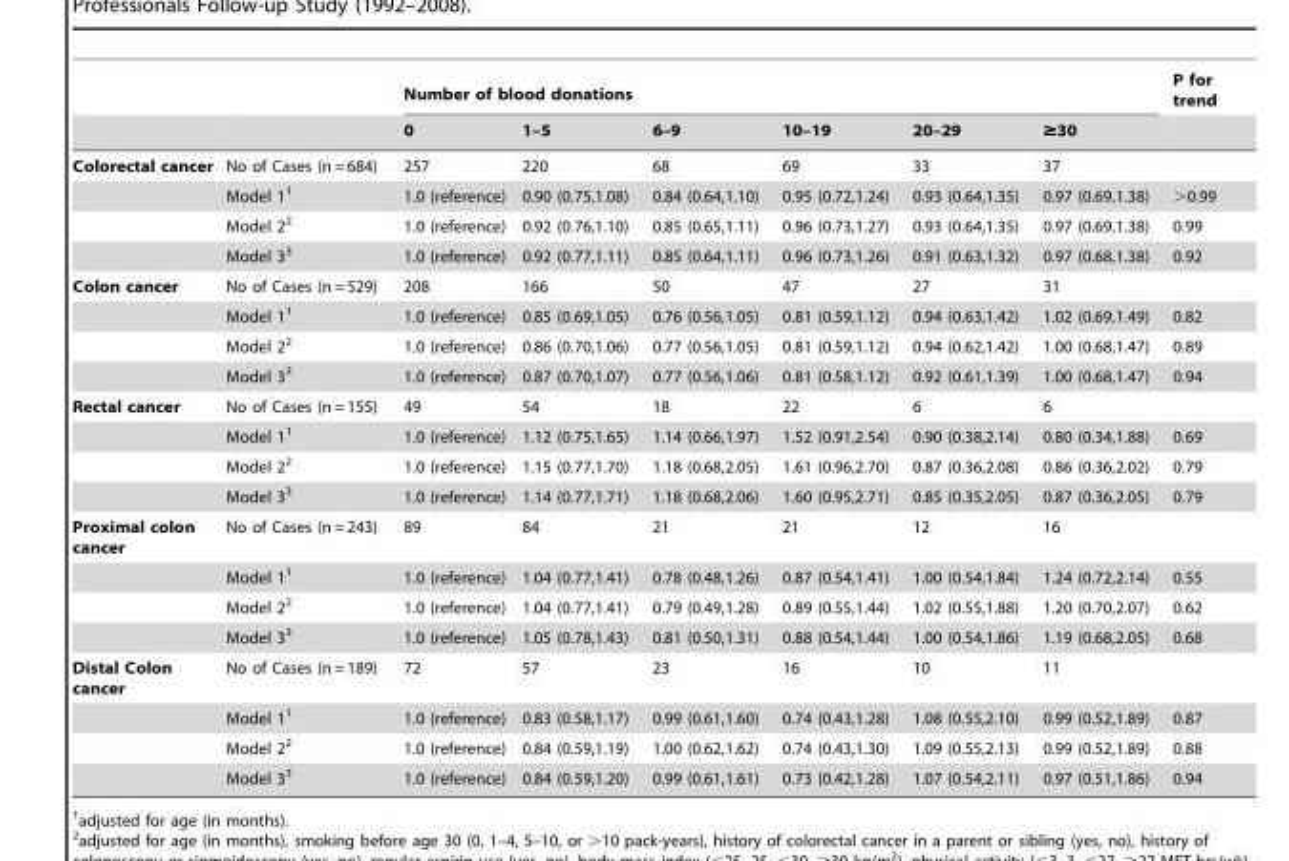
<table><thead><tr><td rowspan="2"></td><td rowspan="2"></td><td colspan="6">Number of blood donations</td><td rowspan="2">P for trend</td></tr><tr><td>0</td><td>1–5</td><td>6–9</td><td>10–19</td><td>20–29</td><td>≥30</td></tr></thead><tbody><tr><td rowspan="4">Colorectal cancer</td><td>No of Cases (n = 684)</td><td>257</td><td>220</td><td>68</td><td>69</td><td>33</td><td>37</td><td></td></tr><tr><td>Model 1<sup>1</sup></td><td>1.0 (reference)</td><td>0.90 (0.75,1.08)</td><td>0.84 (0.64,1.10)</td><td>0.95 (0.72,1.24)</td><td>0.93 (0.64,1.35)</td><td>0.97 (0.69,1.38)</td><td>&gt;0.99</td></tr><tr><td>Model 2<sup>2</sup></td><td>1.0 (reference)</td><td>0.92 (0.76,1.10)</td><td>0.85 (0.65,1.11)</td><td>0.96 (0.73,1.27)</td><td>0.93 (0.64,1.35)</td><td>0.97 (0.69,1.38)</td><td>0.99</td></tr><tr><td>Model 3<sup>3</sup></td><td>1.0 (reference)</td><td>0.92 (0.77,1.11)</td><td>0.85 (0.64,1.11)</td><td>0.96 (0.73,1.26)</td><td>0.91 (0.63,1.32)</td><td>0.97 (0.68,1.38)</td><td>0.92</td></tr><tr><td rowspan="4">Colon cancer</td><td>No of Cases (n = 529)</td><td>208</td><td>166</td><td>50</td><td>47</td><td>27</td><td>31</td><td></td></tr><tr><td>Model 1<sup>1</sup></td><td>1.0 (reference)</td><td>0.85 (0.69,1.05)</td><td>0.76 (0.56,1.05)</td><td>0.81 (0.59,1.12)</td><td>0.94 (0.63,1.42)</td><td>1.02 (0.69,1.49)</td><td>0.82</td></tr><tr><td>Model 2<sup>2</sup></td><td>1.0 (reference)</td><td>0.86 (0.70,1.06)</td><td>0.77 (0.56,1.05)</td><td>0.81 (0.59,1.12)</td><td>0.94 (0.62,1.42)</td><td>1.00 (0.68,1.47)</td><td>0.89</td></tr><tr><td>Model 3<sup>3</sup></td><td>1.0 (reference)</td><td>0.87 (0.70,1.07)</td><td>0.77 (0.56,1.06)</td><td>0.81 (0.58,1.12)</td><td>0.92 (0.61,1.39)</td><td>1.00 (0.68,1.47)</td><td>0.94</td></tr><tr><td rowspan="4">Rectal cancer</td><td>No of Cases (n = 155)</td><td>49</td><td>54</td><td>18</td><td>22</td><td>6</td><td>6</td><td></td></tr><tr><td>Model 1<sup>1</sup></td><td>1.0 (reference)</td><td>1.12 (0.75,1.65)</td><td>1.14 (0.66,1.97)</td><td>1.52 (0.91,2.54)</td><td>0.90 (0.38,2.14)</td><td>0.80 (0.34,1.88)</td><td>0.69</td></tr><tr><td>Model 2<sup>2</sup></td><td>1.0 (reference)</td><td>1.15 (0.77,1.70)</td><td>1.18 (0.68,2.05)</td><td>1.61 (0.96,2.70)</td><td>0.87 (0.36,2.08)</td><td>0.86 (0.36,2.02)</td><td>0.79</td></tr><tr><td>Model 3<sup>3</sup></td><td>1.0 (reference)</td><td>1.14 (0.77,1.71)</td><td>1.18 (0.68,2.06)</td><td>1.60 (0.95,2.71)</td><td>0.85 (0.35,2.05)</td><td>0.87 (0.36,2.05)</td><td>0.79</td></tr><tr><td rowspan="4">Proximal colon cancer</td><td>No of Cases (n = 243)</td><td>89</td><td>84</td><td>21</td><td>21</td><td>12</td><td>16</td><td></td></tr><tr><td>Model 1<sup>1</sup></td><td>1.0 (reference)</td><td>1.04 (0.77,1.41)</td><td>0.78 (0.48,1.26)</td><td>0.87 (0.54,1.41)</td><td>1.00 (0.54,1.84)</td><td>1.24 (0.72,2.14)</td><td>0.55</td></tr><tr><td>Model 2<sup>2</sup></td><td>1.0 (reference)</td><td>1.04 (0.77,1.41)</td><td>0.79 (0.49,1.28)</td><td>0.89 (0.55,1.44)</td><td>1.02 (0.55,1.88)</td><td>1.20 (0.70,2.07)</td><td>0.62</td></tr><tr><td>Model 3<sup>3</sup></td><td>1.0 (reference)</td><td>1.05 (0.78,1.43)</td><td>0.81 (0.50,1.31)</td><td>0.88 (0.54,1.44)</td><td>1.00 (0.54,1.86)</td><td>1.19 (0.68,2.05)</td><td>0.68</td></tr><tr><td rowspan="4">Distal Colon cancer</td><td>No of Cases (n = 189)</td><td>72</td><td>57</td><td>23</td><td>16</td><td>10</td><td>11</td><td></td></tr><tr><td>Model 1<sup>1</sup></td><td>1.0 (reference)</td><td>0.83 (0.58,1.17)</td><td>0.99 (0.61,1.60)</td><td>0.74 (0.43,1.28)</td><td>1.08 (0.55,2.10)</td><td>0.99 (0.52,1.89)</td><td>0.87</td></tr><tr><td>Model 2<sup>2</sup></td><td>1.0 (reference)</td><td>0.84 (0.59,1.19)</td><td>1.00 (0.62,1.62)</td><td>0.74 (0.43,1.30)</td><td>1.09 (0.55,2.13)</td><td>0.99 (0.52,1.89)</td><td>0.88</td></tr><tr><td>Model 3<sup>3</sup></td><td>1.0 (reference)</td><td>0.84 (0.59,1.20)</td><td>0.99 (0.61,1.61)</td><td>0.73 (0.42,1.28)</td><td>1.07 (0.54,2.11)</td><td>0.97 (0.51,1.86)</td><td>0.94</td></tr></tbody></table>